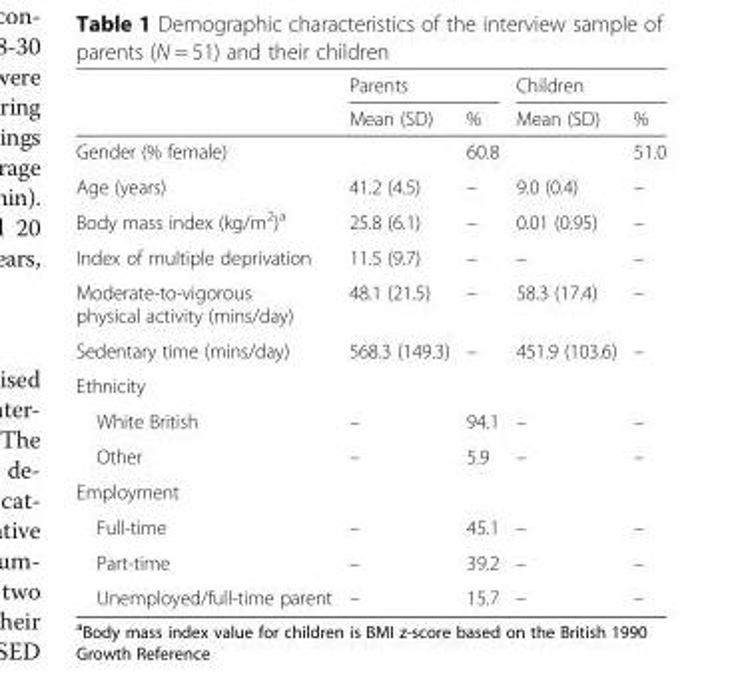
<table><thead><tr><td rowspan="2"></td><td colspan="2">Parents</td><td colspan="2">Children</td></tr><tr><td>Mean (SD)</td><td>%</td><td>Mean (SD)</td><td>%</td></tr></thead><tbody><tr><td>Gender (% female)</td><td></td><td>60.8</td><td></td><td>51.0</td></tr><tr><td>Age (years)</td><td>41.2 (4.5)</td><td>–</td><td>9.0 (0.4)</td><td>–</td></tr><tr><td>Body mass index (kg/m<sup>2</sup>)<sup>a</sup></td><td>25.8 (6.1)</td><td>–</td><td>0.01 (0.95)</td><td>–</td></tr><tr><td>Index of multiple deprivation</td><td>11.5 (9.7)</td><td>–</td><td>–</td><td>–</td></tr><tr><td>Moderate-to-vigorous physical activity (mins/day)</td><td>48.1 (21.5)</td><td>–</td><td>58.3 (17.4)</td><td>–</td></tr><tr><td>Sedentary time (mins/day)</td><td>568.3 (149.3)</td><td>–</td><td>451.9 (103.6)</td><td>–</td></tr><tr><td colspan="5">Ethnicity</td></tr><tr><td>White British</td><td>–</td><td>94.1</td><td>–</td><td>–</td></tr><tr><td>Other</td><td>–</td><td>5.9</td><td>–</td><td>–</td></tr><tr><td colspan="5">Employment</td></tr><tr><td>Full-time</td><td>–</td><td>45.1</td><td>–</td><td>–</td></tr><tr><td>Part-time</td><td>–</td><td>39.2</td><td>–</td><td>–</td></tr><tr><td>Unemployed/full-time parent</td><td>–</td><td>15.7</td><td>–</td><td>–</td></tr></tbody></table>